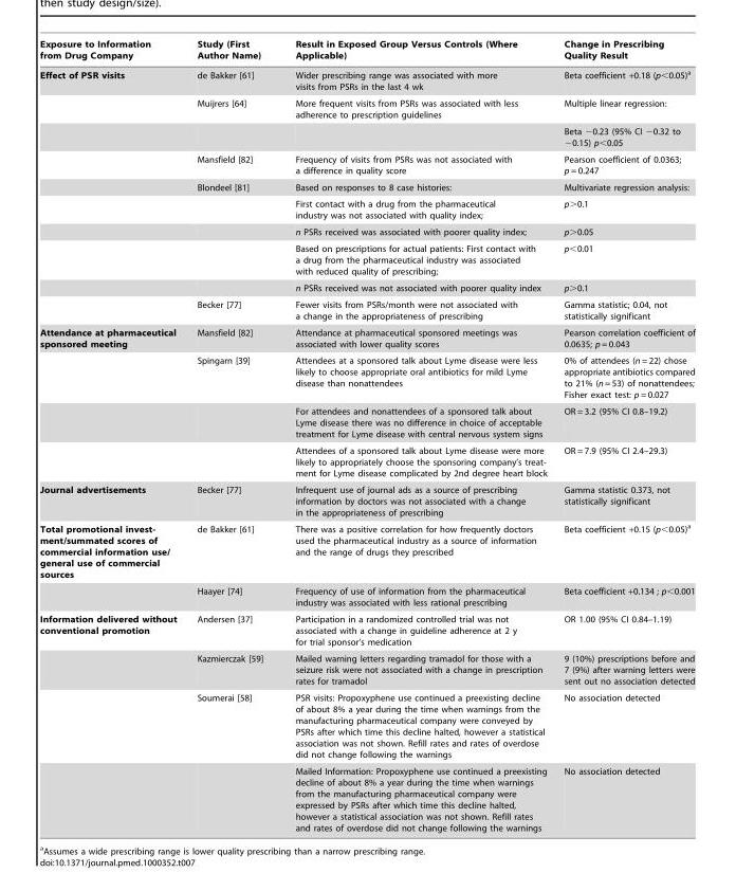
<table><thead><tr><td>Exposure to Information from Drug Company</td><td>Study (First Author Name)</td><td>Result in Exposed Group Versus Controls (Where Applicable)</td><td>Change in Prescribing Quality Result</td></tr></thead><tbody><tr><td rowspan="10">Effect of PSR visits</td><td>de Bakker [61]</td><td>Wider prescribing range was associated with more visits from PSRs in the last 4 wk</td><td>Beta coefficient +0.18 (p&lt;0.05)<sup>a</sup></td></tr><tr><td>Muijrers [64]</td><td>More frequent visits from PSRs was associated with less adherence to prescription guidelines</td><td>Multiple linear regression:</td></tr><tr><td></td><td></td><td>Beta −0.23 (95% CI −0.32 to −0.15) p&lt;0.05</td></tr><tr><td>Mansfield [82]</td><td>Frequency of visits from PSRs was not associated with a difference in quality score</td><td>Pearson coefficient of 0.0363; p = 0.247</td></tr><tr><td>Blondeel [81]</td><td>Based on responses to 8 case histories:</td><td>Multivariate regression analysis:</td></tr><tr><td></td><td>First contact with a drug from the pharmaceutical industry was not associated with quality index;</td><td>p&gt;0.1</td></tr><tr><td></td><td>n PSRs received was associated with poorer quality index;</td><td>p&gt;0.05</td></tr><tr><td></td><td>Based on prescriptions for actual patients: First contact with a drug from the pharmaceutical industry was associated with reduced quality of prescribing;</td><td>p&lt;0.01</td></tr><tr><td></td><td>n PSRs received was not associated with poorer quality index</td><td>p&gt;0.1</td></tr><tr><td>Becker [77]</td><td>Fewer visits from PSRs/month were not associated with a change in the appropriateness of prescribing</td><td>Gamma statistic; 0.04, not statistically significant</td></tr><tr><td rowspan="4">Attendance at pharmaceutical sponsored meeting</td><td>Mansfield [82]</td><td>Attendance at pharmaceutical sponsored meetings was associated with lower quality scores</td><td>Pearson correlation coefficient of 0.0635; p = 0.043</td></tr><tr><td>Spingarn [39]</td><td>Attendees at a sponsored talk about Lyme disease were less likely to choose appropriate oral antibiotics for mild Lyme disease than nonattendees</td><td>0% of attendees (n = 22) chose appropriate antibiotics compared to 21% (n = 53) of nonattendees; Fisher exact test: p = 0.027</td></tr><tr><td></td><td>For attendees and nonattendees of a sponsored talk about Lyme disease there was no difference in choice of acceptable treatment for Lyme disease with central nervous system signs</td><td>OR = 3.2 (95% CI 0.8–19.2)</td></tr><tr><td></td><td>Attendees of a sponsored talk about Lyme disease were more likely to appropriately choose the sponsoring company’s treat- ment for Lyme disease complicated by 2nd degree heart block</td><td>OR = 7.9 (95% CI 2.4–29.3)</td></tr><tr><td>Journal advertisements</td><td>Becker [77]</td><td>Infrequent use of journal ads as a source of prescribing information by doctors was not associated with a change in the appropriateness of prescribing</td><td>Gamma statistic 0.373, not statistically significant</td></tr><tr><td rowspan="2">Total promotional invest- ment/summated scores of commercial information use/ general use of commercial sources</td><td>de Bakker [61]</td><td>There was a positive correlation for how frequently doctors used the pharmaceutical industry as a source of information and the range of drugs they prescribed</td><td>Beta coefficient +0.15 (p&lt;0.05)<sup>a</sup></td></tr><tr><td>Haayer [74]</td><td>Frequency of use of information from the pharmaceutical industry was associated with less rational prescribing</td><td>Beta coefficient +0.134 ; p&lt;0.001</td></tr><tr><td rowspan="4">Information delivered without conventional promotion</td><td>Andersen [37]</td><td>Participation in a randomized controlled trial was not associated with a change in guideline adherence at 2 y for trial sponsor’s medication</td><td>OR 1.00 (95% CI 0.84–1.19)</td></tr><tr><td>Kazmierczak [59]</td><td>Mailed warning letters regarding tramadol for those with a seizure risk were not associated with a change in prescription rates for tramadol</td><td>9 (10%) prescriptions before and 7 (9%) after warning letters were sent out no association detected</td></tr><tr><td>Soumerai [58]</td><td>PSR visits: Propoxyphene use continued a preexisting decline of about 8% a year during the time when warnings from the manufacturing pharmaceutical company were conveyed by PSRs after which time this decline halted, however a statistical association was not shown. Refill rates and rates of overdose did not change following the warnings</td><td>No association detected</td></tr><tr><td></td><td>Mailed Information: Propoxyphene use continued a preexisting decline of about 8% a year during the time when warnings from the manufacturing pharmaceutical company were expressed by PSRs after which time this decline halted, however a statistical association was not shown. Refill rates and rates of overdose did not change following the warnings</td><td>No association detected</td></tr></tbody></table>